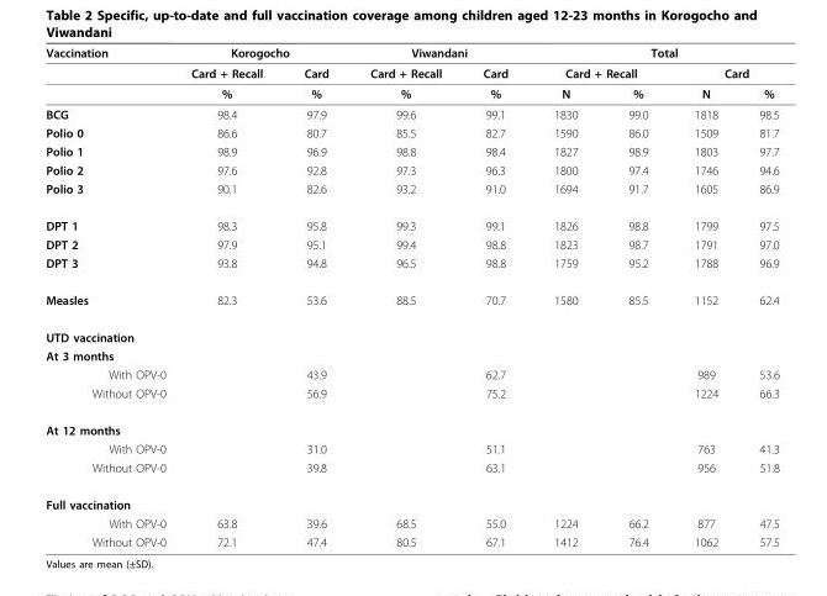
<table><thead><tr><td rowspan="3">Vaccination</td><td colspan="2">Korogocho</td><td colspan="2">Viwandani</td><td colspan="4">Total</td></tr><tr><td rowspan="2">Card + Recall %</td><td rowspan="2">Card %</td><td rowspan="2">Card + Recall %</td><td rowspan="2">Card %</td><td colspan="2">Card + Recall</td><td colspan="2">Card</td></tr><tr><td>N</td><td>%</td><td>N</td><td>%</td></tr></thead><tbody><tr><td>BCG</td><td>98.4</td><td>97.9</td><td>99.6</td><td>99.1</td><td>1830</td><td>99.0</td><td>1818</td><td>98.5</td></tr><tr><td>Polio 0</td><td>86.6</td><td>80.7</td><td>85.5</td><td>82.7</td><td>1590</td><td>86.0</td><td>1509</td><td>81.7</td></tr><tr><td>Polio 1</td><td>98.9</td><td>96.9</td><td>98.8</td><td>98.4</td><td>1827</td><td>98.9</td><td>1803</td><td>97.7</td></tr><tr><td>Polio 2</td><td>97.6</td><td>92.8</td><td>97.3</td><td>96.3</td><td>1800</td><td>97.4</td><td>1746</td><td>94.6</td></tr><tr><td>Polio 3</td><td>90.1</td><td>82.6</td><td>93.2</td><td>91.0</td><td>1694</td><td>91.7</td><td>1605</td><td>86.9</td></tr><tr><td>DPT 1</td><td>98.3</td><td>95.8</td><td>99.3</td><td>99.1</td><td>1826</td><td>98.8</td><td>1799</td><td>97.5</td></tr><tr><td>DPT 2</td><td>97.9</td><td>95.1</td><td>99.4</td><td>98.8</td><td>1823</td><td>98.7</td><td>1791</td><td>97.0</td></tr><tr><td>DPT 3</td><td>93.8</td><td>94.8</td><td>96.5</td><td>98.8</td><td>1759</td><td>95.2</td><td>1788</td><td>96.9</td></tr><tr><td>Measles</td><td>82.3</td><td>53.6</td><td>88.5</td><td>70.7</td><td>1580</td><td>85.5</td><td>1152</td><td>62.4</td></tr><tr><td colspan="9">UTD vaccination</td></tr><tr><td colspan="9">At 3 months</td></tr><tr><td>With OPV-0</td><td></td><td>43.9</td><td></td><td>62.7</td><td></td><td></td><td>989</td><td>53.6</td></tr><tr><td>Without OPV-0</td><td></td><td>56.9</td><td></td><td>75.2</td><td></td><td></td><td>1224</td><td>66.3</td></tr><tr><td colspan="9">At 12 months</td></tr><tr><td>With OPV-0</td><td></td><td>31.0</td><td></td><td>51.1</td><td></td><td></td><td>763</td><td>41.3</td></tr><tr><td>Without OPV-0</td><td></td><td>39.8</td><td></td><td>63.1</td><td></td><td></td><td>956</td><td>51.8</td></tr><tr><td colspan="9">Full vaccination</td></tr><tr><td>With OPV-0</td><td>63.8</td><td>39.6</td><td>68.5</td><td>55.0</td><td>1224</td><td>66.2</td><td>877</td><td>47.5</td></tr><tr><td>Without OPV-0</td><td>72.1</td><td>47.4</td><td>80.5</td><td>67.1</td><td>1412</td><td>76.4</td><td>1062</td><td>57.5</td></tr></tbody></table>